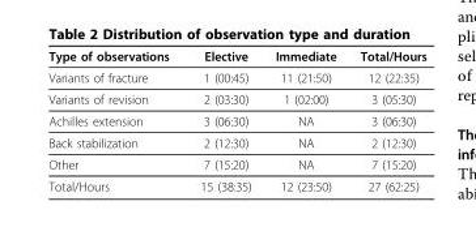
<table><thead><tr><td>Type of observations</td><td>Elective</td><td>Immediate</td><td>Total/Hours</td></tr></thead><tbody><tr><td>Variants of fracture</td><td>1 (00:45)</td><td>11 (21:50)</td><td>12 (22:35)</td></tr><tr><td>Variants of revision</td><td>2 (03:30)</td><td>1 (02:00)</td><td>3 (05:30)</td></tr><tr><td>Achilles extension</td><td>3 (06:30)</td><td>NA</td><td>3 (06:30)</td></tr><tr><td>Back stabilization</td><td>2 (12:30)</td><td>NA</td><td>2 (12:30)</td></tr><tr><td>Other</td><td>7 (15:20)</td><td>NA</td><td>7 (15:20)</td></tr><tr><td>Total/Hours</td><td>15 (38:35)</td><td>12 (23:50)</td><td>27 (62:25)</td></tr></tbody></table>